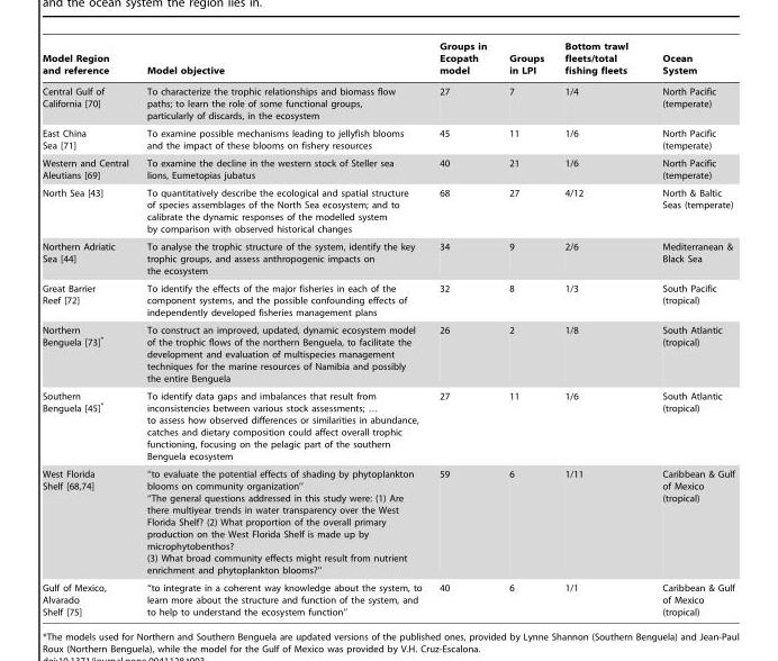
<table><thead><tr><td>Model Region and reference</td><td>Model objective</td><td>Groups in Ecopath model</td><td>Groups in LPI</td><td>Bottom trawl fleets/total fishing fleets</td><td>Ocean System</td></tr></thead><tbody><tr><td>Central Gulf of California [70]</td><td>To characterize the trophic relationships and biomass flow paths; to learn the role of some functional groups, particularly of discards, in the ecosystem</td><td>27</td><td>7</td><td>1/4</td><td>North Pacific (temperate)</td></tr><tr><td>East China Sea [71]</td><td>To examine possible mechanisms leading to jellyfish blooms and the impact of these blooms on fishery resources</td><td>45</td><td>11</td><td>1/6</td><td>North Pacific (temperate)</td></tr><tr><td>Western and Central Aleutians [69]</td><td>To examine the decline in the western stock of Steller sea lions, Eumetopias jubatus</td><td>40</td><td>21</td><td>1/6</td><td>North Pacific (temperate)</td></tr><tr><td>North Sea [43]</td><td>To quantitatively describe the ecological and spatial structure of species assemblages of the North Sea ecosystem; and to calibrate the dynamic responses of the modelled system by comparison with observed historical changes</td><td>68</td><td>27</td><td>4/12</td><td>North &amp; Baltic Seas (temperate)</td></tr><tr><td>Northern Adriatic Sea [44]</td><td>To analyse the trophic structure of the system, identify the key trophic groups, and assess anthropogenic impacts on the ecosystem</td><td>34</td><td>9</td><td>2/6</td><td>Mediterranean &amp; Black Sea</td></tr><tr><td>Great Barrier Reef [72]</td><td>To identify the effects of the major fisheries in each of the component systems, and the possible confounding effects of independently developed fisheries management plans</td><td>32</td><td>8</td><td>1/3</td><td>South Pacific (tropical)</td></tr><tr><td>Northern Benguela [73]*</td><td>To construct an improved, updated, dynamic ecosystem model of the trophic flows of the northern Benguela, to facilitate the development and evaluation of multispecies management techniques for the marine resources of Namibia and possibly the entire Benguela</td><td>26</td><td>2</td><td>1/8</td><td>South Atlantic (tropical)</td></tr><tr><td>Southern Benguela [45]*</td><td>To identify data gaps and imbalances that result from inconsistencies between various stock assessments; … to assess how observed differences or similarities in abundance, catches and dietary composition could affect overall trophic functioning, focusing on the pelagic part of the southern Benguela ecosystem</td><td>27</td><td>11</td><td>1/6</td><td>South Atlantic (tropical)</td></tr><tr><td>West Florida Shelf [68,74]</td><td>‘‘to evaluate the potential effects of shading by phytoplankton blooms on community organization’’ ‘‘The general questions addressed in this study were: (1) Are there multiyear trends in water transparency over the West Florida Shelf? (2) What proportion of the overall primary production on the West Florida Shelf is made up by microphytobenthos? (3) What broad community effects might result from nutrient enrichment and phytoplankton blooms?’’</td><td>59</td><td>6</td><td>1/11</td><td>Caribbean &amp; Gulf of Mexico (tropical)</td></tr><tr><td>Gulf of Mexico, Alvarado Shelf [75]</td><td>‘‘to integrate in a coherent way knowledge about the system, to learn more about the structure and function of the system, and to help to understand the ecosystem function’’</td><td>40</td><td>6</td><td>1/1</td><td>Caribbean &amp; Gulf of Mexico (tropical)</td></tr></tbody></table>